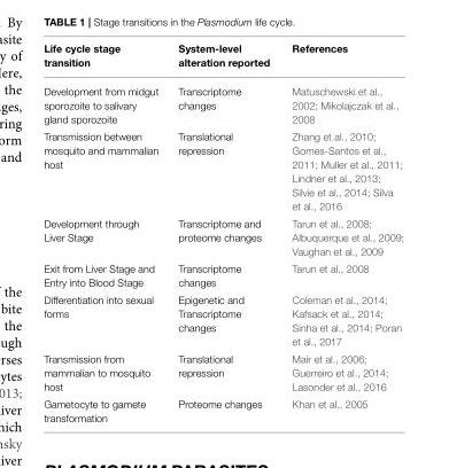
<table><thead><tr><td>Life cycle stage transition</td><td>System-level alteration reported</td><td>References</td></tr></thead><tbody><tr><td>Development from midgut sporozoite to salivary gland sporozoite</td><td>Transcriptome changes</td><td>Matuschewski et al., 2002; Mikolajczak et al., 2008</td></tr><tr><td>Transmission between mosquito and mammalian host</td><td>Translational repression</td><td>Zhang et al., 2010; Gomes-Santos et al., 2011; Muller et al., 2011; Lindner et al., 2013; Silvie et al., 2014; Silva et al., 2016</td></tr><tr><td>Development through Liver Stage</td><td>Transcriptome and proteome changes</td><td>Tarun et al., 2008; Albuquerque et al., 2009; Vaughan et al., 2009</td></tr><tr><td>Exit from Liver Stage and Entry into Blood Stage</td><td>Transcriptome changes</td><td>Tarun et al., 2008</td></tr><tr><td>Differentiation into sexual forms</td><td>Epigenetic and Transcriptome changes</td><td>Coleman et al., 2014; Kafsack et al., 2014; Sinha et al., 2014; Poran et al., 2017</td></tr><tr><td>Transmission from mammalian to mosquito host</td><td>Translational repression</td><td>Mair et al., 2006; Guerreiro et al., 2014; Lasonder et al., 2016</td></tr><tr><td>Gametocyte to gamete transformation</td><td>Proteome changes</td><td>Khan et al., 2005</td></tr></tbody></table>